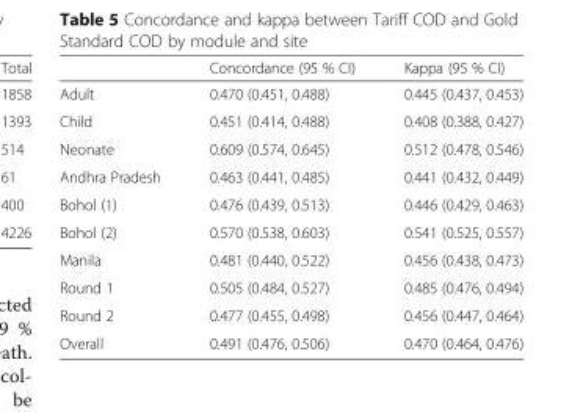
<table><thead><tr><td></td><td>Concordance (95 % CI)</td><td>Kappa (95 % CI)</td></tr></thead><tbody><tr><td>Adult</td><td>0.470 (0.451, 0.488)</td><td>0.445 (0.437, 0.453)</td></tr><tr><td>Child</td><td>0.451 (0.414, 0.488)</td><td>0.408 (0.388, 0.427)</td></tr><tr><td>Neonate</td><td>0.609 (0.574, 0.645)</td><td>0.512 (0.478, 0.546)</td></tr><tr><td>Andhra Pradesh</td><td>0.463 (0.441, 0.485)</td><td>0.441 (0.432, 0.449)</td></tr><tr><td>Bohol (1)</td><td>0.476 (0.439, 0.513)</td><td>0.446 (0.429, 0.463)</td></tr><tr><td>Bohol (2)</td><td>0.570 (0.538, 0.603)</td><td>0.541 (0.525, 0.557)</td></tr><tr><td>Manila</td><td>0.481 (0.440, 0.522)</td><td>0.456 (0.438, 0.473)</td></tr><tr><td>Round 1</td><td>0.505 (0.484, 0.527)</td><td>0.485 (0.476, 0.494)</td></tr><tr><td>Round 2</td><td>0.477 (0.455, 0.498)</td><td>0.456 (0.447, 0.464)</td></tr><tr><td>Overall</td><td>0.491 (0.476, 0.506)</td><td>0.470 (0.464, 0.476)</td></tr></tbody></table>